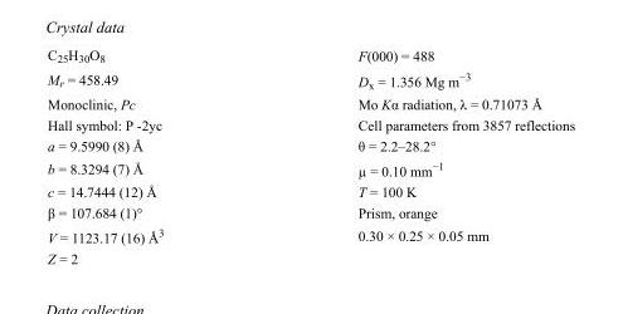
<table><tbody><tr><td>C<sub>25</sub>H<sub>30</sub>O<sub>8</sub></td><td>F(000) = 488</td></tr><tr><td>M<sub>r</sub> = 458.49</td><td>D<sub>x</sub> = 1.356 Mg m<sup>−3</sup></td></tr><tr><td>Monoclinic, Pc</td><td>Mo Kα radiation, λ = 0.71073 Å</td></tr><tr><td>Hall symbol: P -2yc</td><td>Cell parameters from 3857 reflections</td></tr><tr><td>a = 9.5990 (8) Å</td><td>θ = 2.2–28.2°</td></tr><tr><td>b = 8.3294 (7) Å</td><td>µ = 0.10 mm<sup>−1</sup></td></tr><tr><td>c = 14.7444 (12) Å</td><td>T = 100 K</td></tr><tr><td>β = 107.684 (1)°</td><td>Prism, orange</td></tr><tr><td>V = 1123.17 (16) Å<sup>3</sup></td><td>0.30 × 0.25 × 0.05 mm</td></tr><tr><td>Z = 2</td><td></td></tr></tbody></table>